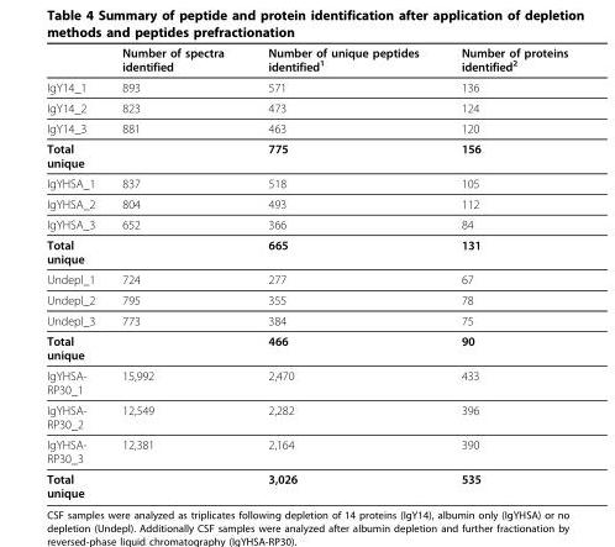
<table><thead><tr><td></td><td>Number of spectra identified</td><td>Number of unique peptides identified<sup>1</sup></td><td>Number of proteins identified<sup>2</sup></td></tr></thead><tbody><tr><td>IgY14_1</td><td>893</td><td>571</td><td>136</td></tr><tr><td>IgY14_2</td><td>823</td><td>473</td><td>124</td></tr><tr><td>IgY14_3</td><td>881</td><td>463</td><td>120</td></tr><tr><td>Total unique</td><td></td><td>775</td><td>156</td></tr><tr><td>IgYHSA_1</td><td>837</td><td>518</td><td>105</td></tr><tr><td>IgYHSA_2</td><td>804</td><td>493</td><td>112</td></tr><tr><td>IgYHSA_3</td><td>652</td><td>366</td><td>84</td></tr><tr><td>Total unique</td><td></td><td>665</td><td>131</td></tr><tr><td>Undepl_1</td><td>724</td><td>277</td><td>67</td></tr><tr><td>Undepl_2</td><td>795</td><td>355</td><td>78</td></tr><tr><td>Undepl_3</td><td>773</td><td>384</td><td>75</td></tr><tr><td>Total unique</td><td></td><td>466</td><td>90</td></tr><tr><td>IgYHSA- RP30_1</td><td>15,992</td><td>2,470</td><td>433</td></tr><tr><td>IgYHSA- RP30_2</td><td>12,549</td><td>2,282</td><td>396</td></tr><tr><td>IgYHSA- RP30_3</td><td>12,381</td><td>2,164</td><td>390</td></tr><tr><td>Total unique</td><td></td><td>3,026</td><td>535</td></tr></tbody></table>